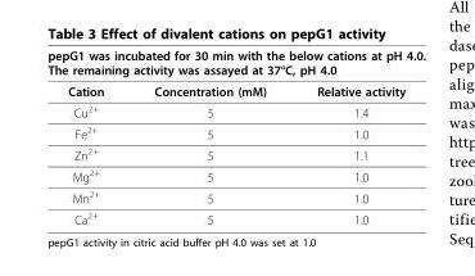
<table><thead><tr><td colspan="3">pepG1 was incubated for 30 min with the below cations at pH 4.0. The remaining activity was assayed at 37°C, pH 4.0</td></tr><tr><td>Cation</td><td>Concentration (mM)</td><td>Relative activity</td></tr></thead><tbody><tr><td>Cu<sup>2+</sup></td><td>5</td><td>1.4</td></tr><tr><td>Fe<sup>2+</sup></td><td>5</td><td>1.0</td></tr><tr><td>Zn<sup>2+</sup></td><td>5</td><td>1.1</td></tr><tr><td>Mg<sup>2+</sup></td><td>5</td><td>1.0</td></tr><tr><td>Mn<sup>2+</sup></td><td>5</td><td>1.0</td></tr><tr><td>Ca<sup>2+</sup></td><td>5</td><td>1.0</td></tr></tbody></table>